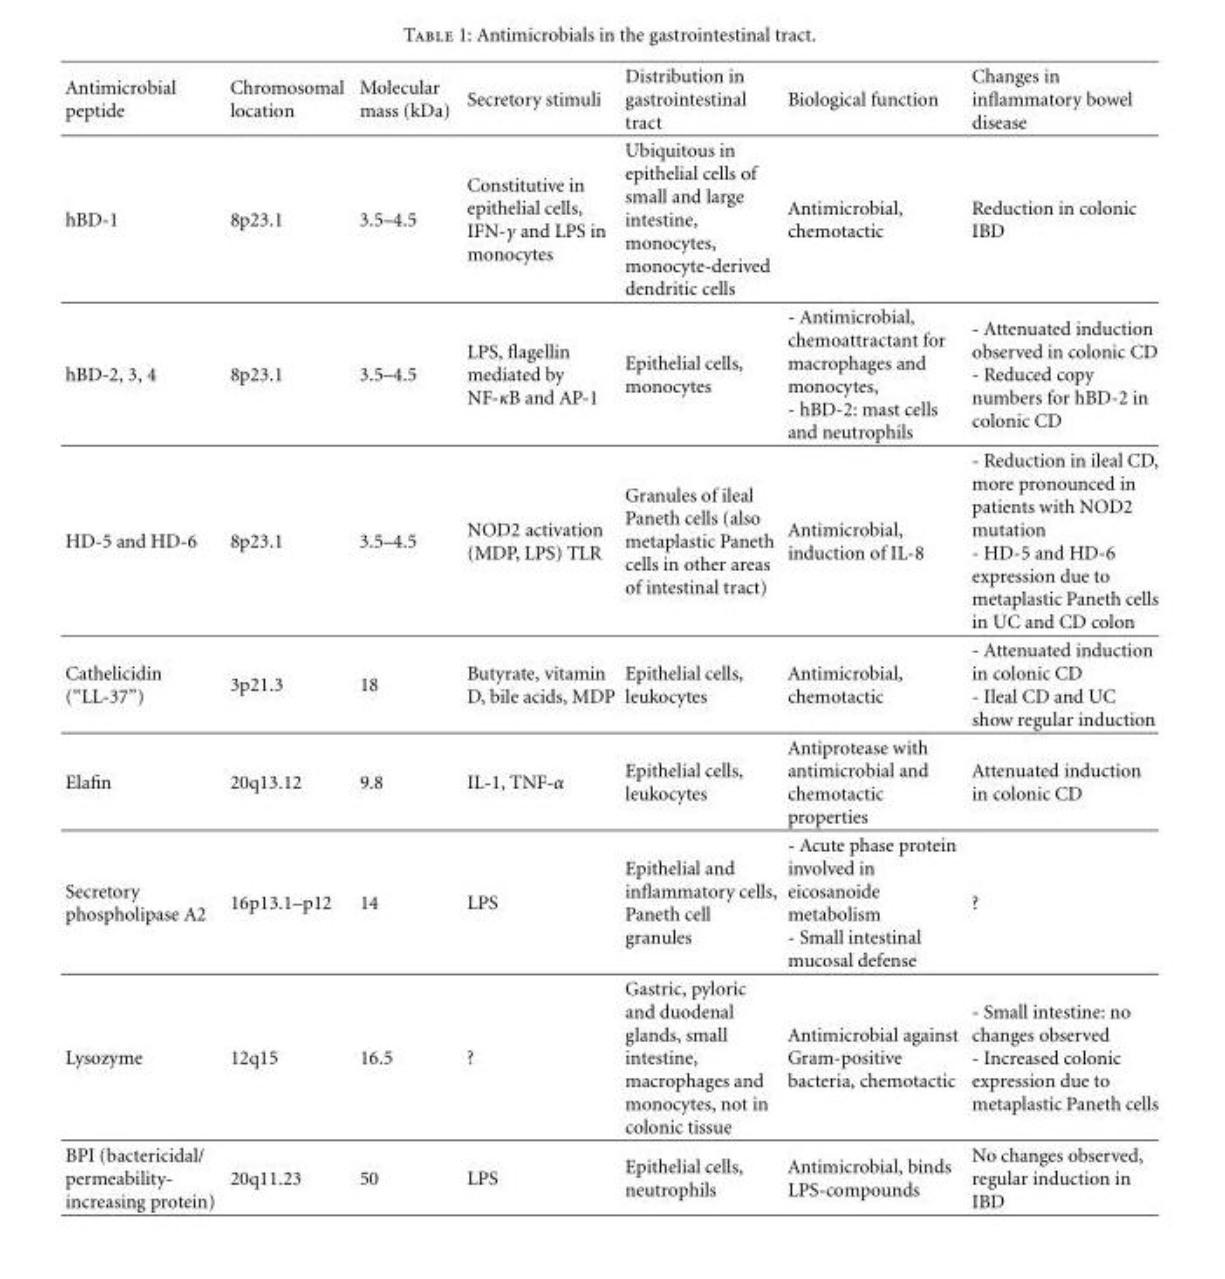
<table><thead><tr><td>Antimicrobial peptide</td><td>Chromosomal location</td><td>Molecular mass (kDa)</td><td>Secretory stimuli</td><td>Distribution in gastrointestinal tract</td><td>Biological function</td><td>Changes in inflammatory bowel disease</td></tr></thead><tbody><tr><td>hBD-1</td><td>8p23.1</td><td>3.5–4.5</td><td>Constitutive in epithelial cells, IFN-γ and LPS in monocytes</td><td>Ubiquitous in epithelial cells of small and large intestine, monocytes, monocyte-derived dendritic cells</td><td>Antimicrobial, chemotactic</td><td>Reduction in colonic IBD</td></tr><tr><td>hBD-2, 3, 4</td><td>8p23.1</td><td>3.5–4.5</td><td>LPS, flagellin mediated by NF-κB and AP-1</td><td>Epithelial cells, monocytes</td><td>- Antimicrobial, chemoattractant for macrophages and monocytes, - hBD-2: mast cells and neutrophils</td><td>- Attenuated induction observed in colonic CD - Reduced copy numbers for hBD-2 in colonic CD</td></tr><tr><td>HD-5 and HD-6</td><td>8p23.1</td><td>3.5–4.5</td><td>NOD2 activation (MDP, LPS) TLR</td><td>Granules of ileal Paneth cells (also metaplastic Paneth cells in other areas of intestinal tract)</td><td>Antimicrobial, induction of IL-8</td><td>- Reduction in ileal CD, more pronounced in patients with NOD2 mutation - HD-5 and HD-6 expression due to metaplastic Paneth cells in UC and CD colon</td></tr><tr><td>Cathelicidin (“LL-37”)</td><td>3p21.3</td><td>18</td><td>Butyrate, vitamin D, bile acids, MDP</td><td>Epithelial cells, leukocytes</td><td>Antimicrobial, chemotactic</td><td>- Attenuated induction in colonic CD - Ileal CD and UC show regular induction</td></tr><tr><td>Elafin</td><td>20q13.12</td><td>9.8</td><td>IL-1, TNF-α</td><td>Epithelial cells, leukocytes</td><td>Antiprotease with antimicrobial and chemotactic properties</td><td>Attenuated induction in colonic CD</td></tr><tr><td>Secretory phospholipase A2</td><td>16p13.1–p12</td><td>14</td><td>LPS</td><td>Epithelial and inflammatory cells, Paneth cell granules</td><td>- Acute phase protein involved in eicosanoide metabolism - Small intestinal mucosal defense</td><td>?</td></tr><tr><td>Lysozyme</td><td>12q15</td><td>16.5</td><td>?</td><td>Gastric, pyloric and duodenal glands, small intestine, macrophages and monocytes, not in colonic tissue</td><td>Antimicrobial against Gram-positive bacteria, chemotactic</td><td>- Small intestine: no changes observed - Increased colonic expression due to metaplastic Paneth cells</td></tr><tr><td>BPI (bactericidal/ permeability- increasing protein)</td><td>20q11.23</td><td>50</td><td>LPS</td><td>Epithelial cells, neutrophils</td><td>Antimicrobial, binds LPS-compounds</td><td>No changes observed, regular induction in IBD</td></tr></tbody></table>